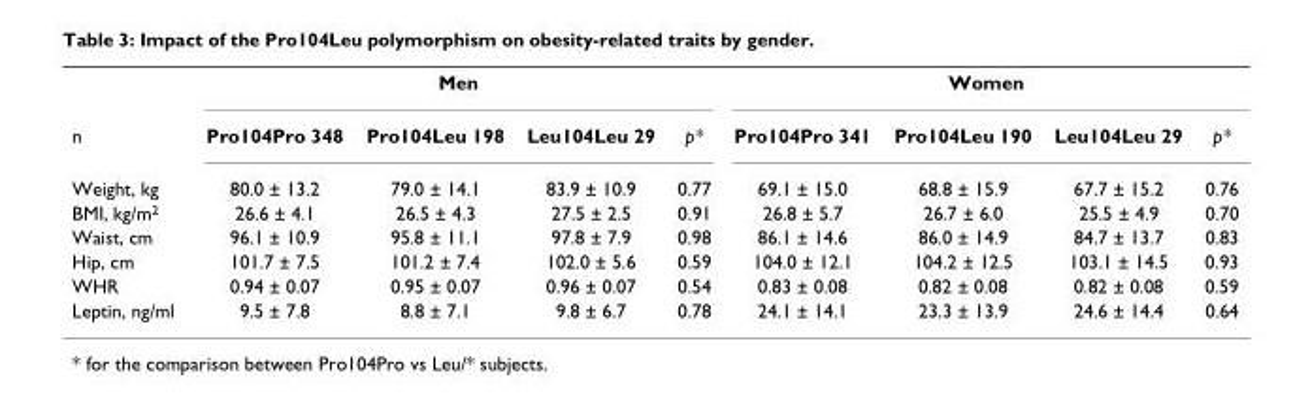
<table><thead><tr><td rowspan="2">n</td><td colspan="4">Men</td><td colspan="4">Women</td></tr><tr><td>Pro104Pro 348</td><td>Pro104Leu 198</td><td>Leu104Leu 29</td><td>p*</td><td>Pro104Pro 341</td><td>Pro104Leu 190</td><td>Leu104Leu 29</td><td>p*</td></tr></thead><tbody><tr><td>Weight, kg</td><td>80.0 ± 13.2</td><td>79.0 ± 14.1</td><td>83.9 ± 10.9</td><td>0.77</td><td>69.1 ± 15.0</td><td>68.8 ± 15.9</td><td>67.7 ± 15.2</td><td>0.76</td></tr><tr><td>BMI, kg/m<sup>2</sup></td><td>26.6 ± 4.1</td><td>26.5 ± 4.3</td><td>27.5 ± 2.5</td><td>0.91</td><td>26.8 ± 5.7</td><td>26.7 ± 6.0</td><td>25.5 ± 4.9</td><td>0.70</td></tr><tr><td>Waist, cm</td><td>96.1 ± 10.9</td><td>95.8 ± 11.1</td><td>97.8 ± 7.9</td><td>0.98</td><td>86.1 ± 14.6</td><td>86.0 ± 14.9</td><td>84.7 ± 13.7</td><td>0.83</td></tr><tr><td>Hip, cm</td><td>101.7 ± 7.5</td><td>101.2 ± 7.4</td><td>102.0 ± 5.6</td><td>0.59</td><td>104.0 ± 12.1</td><td>104.2 ± 12.5</td><td>103.1 ± 14.5</td><td>0.93</td></tr><tr><td>WHR</td><td>0.94 ± 0.07</td><td>0.95 ± 0.07</td><td>0.96 ± 0.07</td><td>0.54</td><td>0.83 ± 0.08</td><td>0.82 ± 0.08</td><td>0.82 ± 0.08</td><td>0.59</td></tr><tr><td>Leptin, ng/ml</td><td>9.5 ± 7.8</td><td>8.8 ± 7.1</td><td>9.8 ± 6.7</td><td>0.78</td><td>24.1 ± 14.1</td><td>23.3 ± 13.9</td><td>24.6 ± 14.4</td><td>0.64</td></tr></tbody></table>